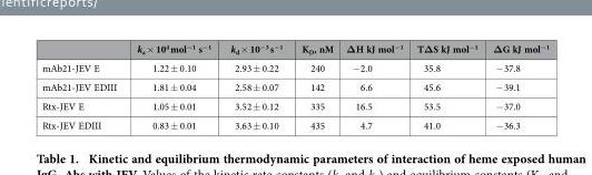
<table><thead><tr><td></td><td>k<sub>a</sub> × 10<sup>4</sup> mol<sup>−1</sup> s<sup>−1</sup></td><td>k<sub>d</sub> × 10<sup>−3</sup> s<sup>−1</sup></td><td>K<sub>D</sub>, nM</td><td>ΔH kJ mol<sup>−1</sup></td><td>TΔS kJ mol<sup>−1</sup></td><td>ΔG kJ mol<sup>−1</sup></td></tr></thead><tbody><tr><td>mAb21-JEV E</td><td>1.22 ± 0.10</td><td>2.93 ± 0.22</td><td>240</td><td>− 2.0</td><td>35.8</td><td>− 37.8</td></tr><tr><td>mAb21-JEV EDIII</td><td>1.81 ± 0.04</td><td>2.58 ± 0.07</td><td>142</td><td>6.6</td><td>45.6</td><td>− 39.1</td></tr><tr><td>Rtx-JEV E</td><td>1.05 ± 0.01</td><td>3.52 ± 0.12</td><td>335</td><td>16.5</td><td>53.5</td><td>− 37.0</td></tr><tr><td>Rtx-JEV EDIII</td><td>0.83 ± 0.01</td><td>3.63 ± 0.10</td><td>435</td><td>4.7</td><td>41.0</td><td>− 36.3</td></tr></tbody></table>